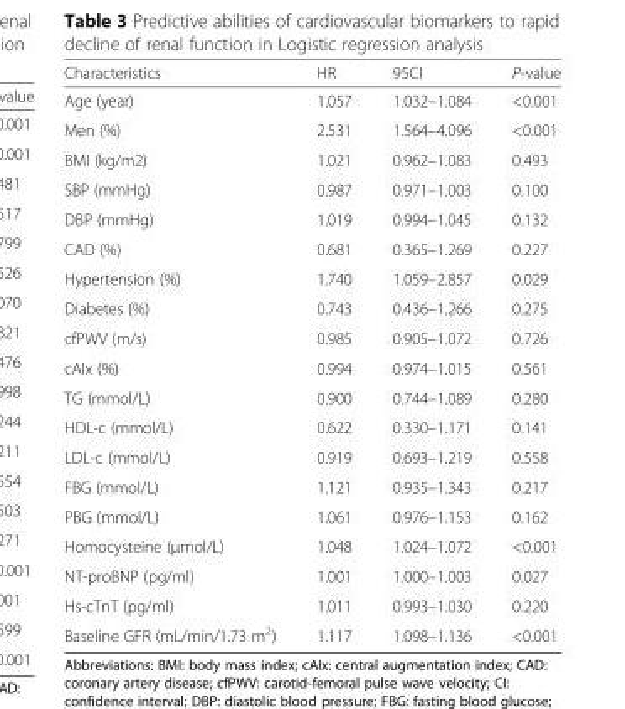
<table><thead><tr><td>Characteristics</td><td>HR</td><td>95CI</td><td>P-value</td></tr></thead><tbody><tr><td>Age (year)</td><td>1.057</td><td>1.032–1.084</td><td>&lt;0.001</td></tr><tr><td>Men (%)</td><td>2.531</td><td>1.564–4.096</td><td>&lt;0.001</td></tr><tr><td>BMI (kg/m2)</td><td>1.021</td><td>0.962–1.083</td><td>0.493</td></tr><tr><td>SBP (mmHg)</td><td>0.987</td><td>0.971–1.003</td><td>0.100</td></tr><tr><td>DBP (mmHg)</td><td>1.019</td><td>0.994–1.045</td><td>0.132</td></tr><tr><td>CAD (%)</td><td>0.681</td><td>0.365–1.269</td><td>0.227</td></tr><tr><td>Hypertension (%)</td><td>1.740</td><td>1.059–2.857</td><td>0.029</td></tr><tr><td>Diabetes (%)</td><td>0.743</td><td>0.436–1.266</td><td>0.275</td></tr><tr><td>cfPWV (m/s)</td><td>0.985</td><td>0.905–1.072</td><td>0.726</td></tr><tr><td>cAIx (%)</td><td>0.994</td><td>0.974–1.015</td><td>0.561</td></tr><tr><td>TG (mmol/L)</td><td>0.900</td><td>0.744–1.089</td><td>0.280</td></tr><tr><td>HDL-c (mmol/L)</td><td>0.622</td><td>0.330–1.171</td><td>0.141</td></tr><tr><td>LDL-c (mmol/L)</td><td>0.919</td><td>0.693–1.219</td><td>0.558</td></tr><tr><td>FBG (mmol/L)</td><td>1.121</td><td>0.935–1.343</td><td>0.217</td></tr><tr><td>PBG (mmol/L)</td><td>1.061</td><td>0.976–1.153</td><td>0.162</td></tr><tr><td>Homocysteine (μmol/L)</td><td>1.048</td><td>1.024–1.072</td><td>&lt;0.001</td></tr><tr><td>NT-proBNP (pg/ml)</td><td>1.001</td><td>1.000–1.003</td><td>0.027</td></tr><tr><td>Hs-cTnT (pg/ml)</td><td>1.011</td><td>0.993–1.030</td><td>0.220</td></tr><tr><td>Baseline GFR (mL/min/1.73 m<sup>2</sup>)</td><td>1.117</td><td>1.098–1.136</td><td>&lt;0.001</td></tr></tbody></table>